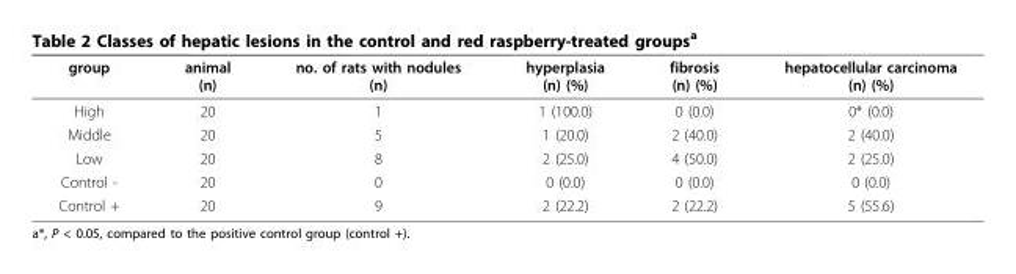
<table><thead><tr><td>group</td><td>animal (n)</td><td>no. of rats with nodules (n)</td><td>hyperplasia (n) (%)</td><td>fibrosis (n) (%)</td><td>hepatocellular carcinoma (n) (%)</td></tr></thead><tbody><tr><td>High</td><td>20</td><td>1</td><td>1 (100.0)</td><td>0 (0.0)</td><td>0* (0.0)</td></tr><tr><td>Middle</td><td>20</td><td>5</td><td>1 (20.0)</td><td>2 (40.0)</td><td>2 (40.0)</td></tr><tr><td>Low</td><td>20</td><td>8</td><td>2 (25.0)</td><td>4 (50.0)</td><td>2 (25.0)</td></tr><tr><td>Control -</td><td>20</td><td>0</td><td>0 (0.0)</td><td>0 (0.0)</td><td>0 (0.0)</td></tr><tr><td>Control +</td><td>20</td><td>9</td><td>2 (22.2)</td><td>2 (22.2)</td><td>5 (55.6)</td></tr></tbody></table>